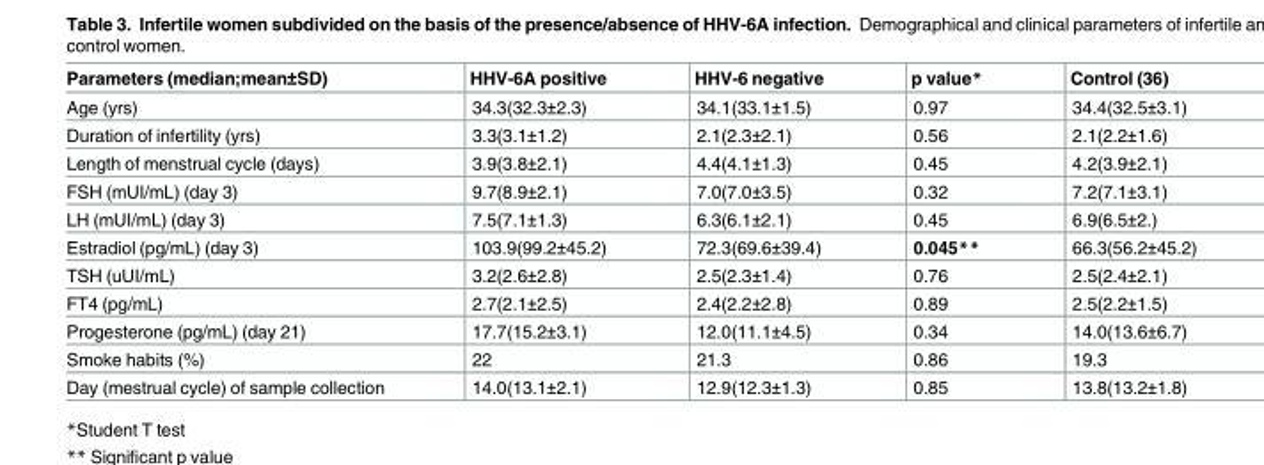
<table><thead><tr><td>Parameters (median;mean±SD)</td><td>HHV-6A positive</td><td>HHV-6 negative</td><td>p value*</td><td>Control (36)</td></tr></thead><tbody><tr><td>Age (yrs)</td><td>34.3(32.3±2.3)</td><td>34.1(33.1±1.5)</td><td>0.97</td><td>34.4(32.5±3.1)</td></tr><tr><td>Duration of infertility (yrs)</td><td>3.3(3.1±1.2)</td><td>2.1(2.3±2.1)</td><td>0.56</td><td>2.1(2.2±1.6)</td></tr><tr><td>Length of menstrual cycle (days)</td><td>3.9(3.8±2.1)</td><td>4.4(4.1±1.3)</td><td>0.45</td><td>4.2(3.9±2.1)</td></tr><tr><td>FSH (mUI/mL) (day 3)</td><td>9.7(8.9±2.1)</td><td>7.0(7.0±3.5)</td><td>0.32</td><td>7.2(7.1±3.1)</td></tr><tr><td>LH (mUI/mL) (day 3)</td><td>7.5(7.1±1.3)</td><td>6.3(6.1±2.1)</td><td>0.45</td><td>6.9(6.5±2.)</td></tr><tr><td>Estradiol (pg/mL) (day 3)</td><td>103.9(99.2±45.2)</td><td>72.3(69.6±39.4)</td><td>0.045**</td><td>66.3(56.2±45.2)</td></tr><tr><td>TSH (uUI/mL)</td><td>3.2(2.6±2.8)</td><td>2.5(2.3±1.4)</td><td>0.76</td><td>2.5(2.4±2.1)</td></tr><tr><td>FT4 (pg/mL)</td><td>2.7(2.1±2.5)</td><td>2.4(2.2±2.8)</td><td>0.89</td><td>2.5(2.2±1.5)</td></tr><tr><td>Progesterone (pg/mL) (day 21)</td><td>17.7(15.2±3.1)</td><td>12.0(11.1±4.5)</td><td>0.34</td><td>14.0(13.6±6.7)</td></tr><tr><td>Smoke habits (%)</td><td>22</td><td>21.3</td><td>0.86</td><td>19.3</td></tr><tr><td>Day (mestrual cycle) of sample collection</td><td>14.0(13.1±2.1)</td><td>12.9(12.3±1.3)</td><td>0.85</td><td>13.8(13.2±1.8)</td></tr></tbody></table>